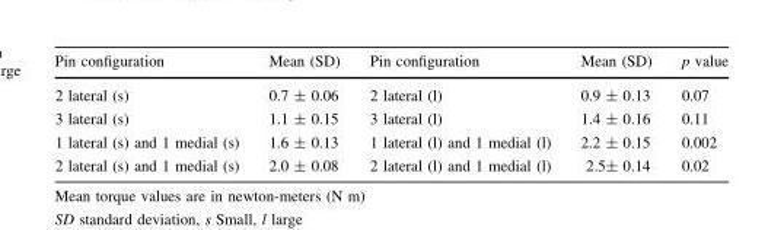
<table><thead><tr><td>Pin configuration</td><td>Mean (SD)</td><td>Pin configuration</td><td>Mean (SD)</td><td>p value</td></tr></thead><tbody><tr><td>2 lateral (s)</td><td>0.7 ± 0.06</td><td>2 lateral (l)</td><td>0.9 ± 0.13</td><td>0.07</td></tr><tr><td>3 lateral (s)</td><td>1.1 ± 0.15</td><td>3 lateral (l)</td><td>1.4 ± 0.16</td><td>0.11</td></tr><tr><td>1 lateral (s) and 1 medial (s)</td><td>1.6 ± 0.13</td><td>1 lateral (l) and 1 medial (l)</td><td>2.2 ± 0.15</td><td>0.002</td></tr><tr><td>2 lateral (s) and 1 medial (s)</td><td>2.0 ± 0.08</td><td>2 lateral (l) and 1 medial (l)</td><td>2.5± 0.14</td><td>0.02</td></tr></tbody></table>